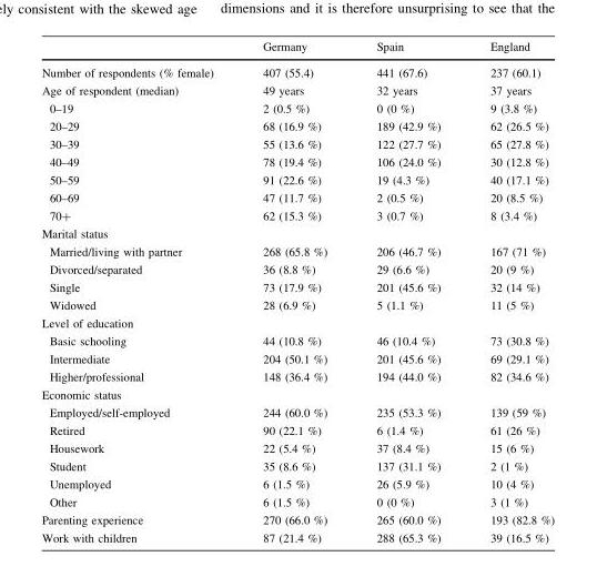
<table><thead><tr><td></td><td>Germany</td><td>Spain</td><td>England</td></tr></thead><tbody><tr><td>Number of respondents (% female)</td><td>407 (55.4)</td><td>441 (67.6)</td><td>237 (60.1)</td></tr><tr><td>Age of respondent (median)</td><td>49 years</td><td>32 years</td><td>37 years</td></tr><tr><td>0–19</td><td>2 (0.5 %)</td><td>0 (0 %)</td><td>9 (3.8 %)</td></tr><tr><td>20–29</td><td>68 (16.9 %)</td><td>189 (42.9 %)</td><td>62 (26.5 %)</td></tr><tr><td>30–39</td><td>55 (13.6 %)</td><td>122 (27.7 %)</td><td>65 (27.8 %)</td></tr><tr><td>40–49</td><td>78 (19.4 %)</td><td>106 (24.0 %)</td><td>30 (12.8 %)</td></tr><tr><td>50–59</td><td>91 (22.6 %)</td><td>19 (4.3 %)</td><td>40 (17.1 %)</td></tr><tr><td>60–69</td><td>47 (11.7 %)</td><td>2 (0.5 %)</td><td>20 (8.5 %)</td></tr><tr><td>70+</td><td>62 (15.3 %)</td><td>3 (0.7 %)</td><td>8 (3.4 %)</td></tr><tr><td colspan="4">Marital status</td></tr><tr><td>Married/living with partner</td><td>268 (65.8 %)</td><td>206 (46.7 %)</td><td>167 (71 %)</td></tr><tr><td>Divorced/separated</td><td>36 (8.8 %)</td><td>29 (6.6 %)</td><td>20 (9 %)</td></tr><tr><td>Single</td><td>73 (17.9 %)</td><td>201 (45.6 %)</td><td>32 (14 %)</td></tr><tr><td>Widowed</td><td>28 (6.9 %)</td><td>5 (1.1 %)</td><td>11 (5 %)</td></tr><tr><td colspan="4">Level of education</td></tr><tr><td>Basic schooling</td><td>44 (10.8 %)</td><td>46 (10.4 %)</td><td>73 (30.8 %)</td></tr><tr><td>Intermediate</td><td>204 (50.1 %)</td><td>201 (45.6 %)</td><td>69 (29.1 %)</td></tr><tr><td>Higher/professional</td><td>148 (36.4 %)</td><td>194 (44.0 %)</td><td>82 (34.6 %)</td></tr><tr><td colspan="4">Economic status</td></tr><tr><td>Employed/self-employed</td><td>244 (60.0 %)</td><td>235 (53.3 %)</td><td>139 (59 %)</td></tr><tr><td>Retired</td><td>90 (22.1 %)</td><td>6 (1.4 %)</td><td>61 (26 %)</td></tr><tr><td>Housework</td><td>22 (5.4 %)</td><td>37 (8.4 %)</td><td>15 (6 %)</td></tr><tr><td>Student</td><td>35 (8.6 %)</td><td>137 (31.1 %)</td><td>2 (1 %)</td></tr><tr><td>Unemployed</td><td>6 (1.5 %)</td><td>26 (5.9 %)</td><td>10 (4 %)</td></tr><tr><td>Other</td><td>6 (1.5 %)</td><td>0 (0 %)</td><td>3 (1 %)</td></tr><tr><td>Parenting experience</td><td>270 (66.0 %)</td><td>265 (60.0 %)</td><td>193 (82.8 %)</td></tr><tr><td>Work with children</td><td>87 (21.4 %)</td><td>288 (65.3 %)</td><td>39 (16.5 %)</td></tr></tbody></table>